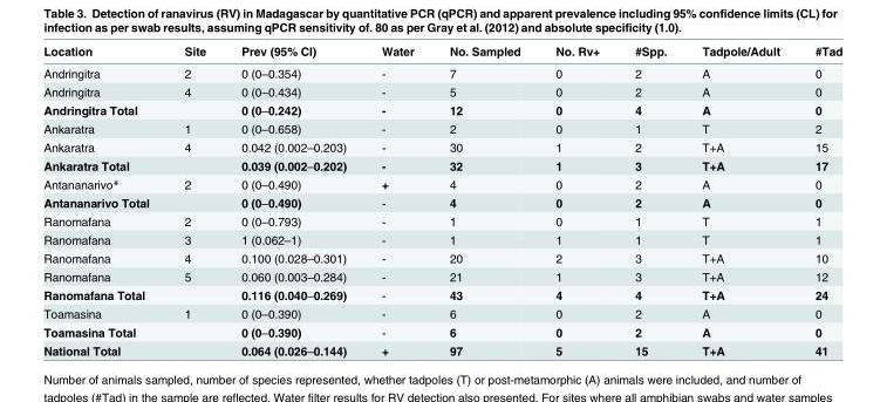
<table><thead><tr><td>Location</td><td>Site</td><td>Prev (95% CI)</td><td>Water</td><td>No. Sampled</td><td>No. Rv+</td><td>#Spp.</td><td>Tadpole/Adult</td><td>#Tad</td></tr></thead><tbody><tr><td>Andringitra</td><td>2</td><td>0 (0–0.354)</td><td>-</td><td>7</td><td>0</td><td>2</td><td>A</td><td>0</td></tr><tr><td>Andringitra</td><td>4</td><td>0 (0–0.434)</td><td>-</td><td>5</td><td>0</td><td>2</td><td>A</td><td>0</td></tr><tr><td>Andringitra Total</td><td></td><td>0 (0–0.242)</td><td>-</td><td>12</td><td>0</td><td>4</td><td>A</td><td>0</td></tr><tr><td>Ankaratra</td><td>1</td><td>0 (0–0.658)</td><td>-</td><td>2</td><td>0</td><td>1</td><td>T</td><td>2</td></tr><tr><td>Ankaratra</td><td>4</td><td>0.042 (0.002–0.203)</td><td>-</td><td>30</td><td>1</td><td>2</td><td>T+A</td><td>15</td></tr><tr><td>Ankaratra Total</td><td></td><td>0.039 (0.002–0.202)</td><td>-</td><td>32</td><td>1</td><td>3</td><td>T+A</td><td>17</td></tr><tr><td>Antananarivo*</td><td>2</td><td>0 (0–0.490)</td><td>+</td><td>4</td><td>0</td><td>2</td><td>A</td><td>0</td></tr><tr><td>Antananarivo Total</td><td></td><td>0 (0–0.490)</td><td>-</td><td>4</td><td>0</td><td>2</td><td>A</td><td>0</td></tr><tr><td>Ranomafana</td><td>2</td><td>0 (0–0.793)</td><td>-</td><td>1</td><td>0</td><td>1</td><td>T</td><td>1</td></tr><tr><td>Ranomafana</td><td>3</td><td>1 (0.062–1)</td><td>-</td><td>1</td><td>1</td><td>1</td><td>T</td><td>1</td></tr><tr><td>Ranomafana</td><td>4</td><td>0.100 (0.028–0.301)</td><td>-</td><td>20</td><td>2</td><td>3</td><td>T+A</td><td>10</td></tr><tr><td>Ranomafana</td><td>5</td><td>0.060 (0.003–0.284)</td><td>-</td><td>21</td><td>1</td><td>3</td><td>T+A</td><td>12</td></tr><tr><td>Ranomafana Total</td><td></td><td>0.116 (0.040–0.269)</td><td>-</td><td>43</td><td>4</td><td>4</td><td>T+A</td><td>24</td></tr><tr><td>Toamasina</td><td>1</td><td>0 (0–0.390)</td><td>-</td><td>6</td><td>0</td><td>2</td><td>A</td><td>0</td></tr><tr><td>Toamasina Total</td><td></td><td>0 (0–0.390)</td><td>-</td><td>6</td><td>0</td><td>2</td><td>A</td><td>0</td></tr><tr><td>National Total</td><td></td><td>0.064 (0.026–0.144)</td><td>+</td><td>97</td><td>5</td><td>15</td><td>T+A</td><td>41</td></tr></tbody></table>